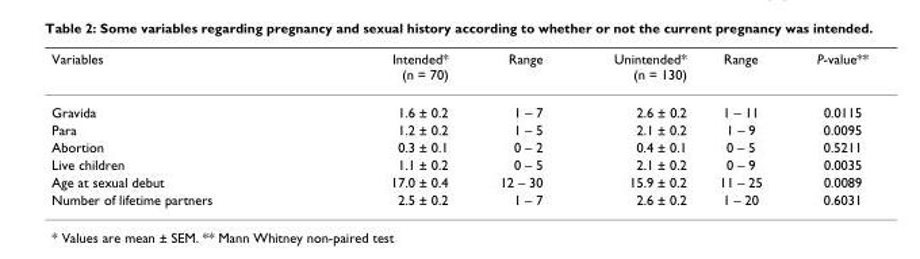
<table><thead><tr><td>Variables</td><td>Intended* (n = 70)</td><td>Range</td><td>Unintended* (n = 130)</td><td>Range</td><td>P-value**</td></tr></thead><tbody><tr><td>Gravida</td><td>1.6 ± 0.2</td><td>1 – 7</td><td>2.6 ± 0.2</td><td>1 – 11</td><td>0.0115</td></tr><tr><td>Para</td><td>1.2 ± 0.2</td><td>1 – 5</td><td>2.1 ± 0.2</td><td>1 – 9</td><td>0.0095</td></tr><tr><td>Abortion</td><td>0.3 ± 0.1</td><td>0 – 2</td><td>0.4 ± 0.1</td><td>0 – 5</td><td>0.5211</td></tr><tr><td>Live children</td><td>1.1 ± 0.2</td><td>0 – 5</td><td>2.1 ± 0.2</td><td>0 – 9</td><td>0.0035</td></tr><tr><td>Age at sexual debut</td><td>17.0 ± 0.4</td><td>12 – 30</td><td>15.9 ± 0.2</td><td>11 – 25</td><td>0.0089</td></tr><tr><td>Number of lifetime partners</td><td>2.5 ± 0.2</td><td>1 – 7</td><td>2.6 ± 0.2</td><td>1 – 20</td><td>0.6031</td></tr></tbody></table>